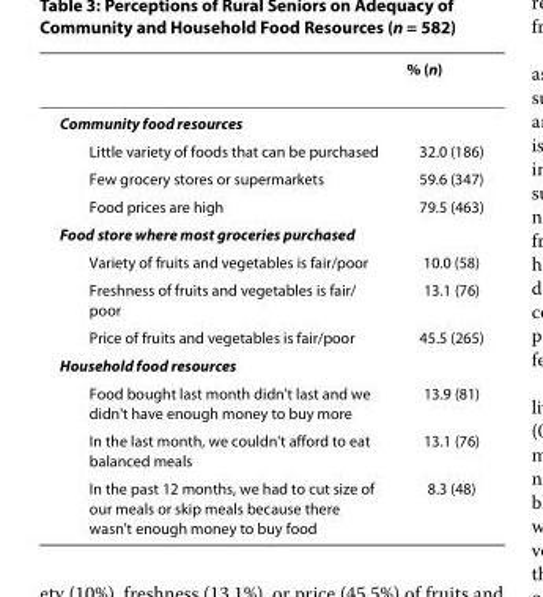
<table><thead><tr><td></td><td>% (n)</td></tr></thead><tbody><tr><td colspan="2">Community food resources</td></tr><tr><td>Little variety of foods that can be purchased</td><td>32.0 (186)</td></tr><tr><td>Few grocery stores or supermarkets</td><td>59.6 (347)</td></tr><tr><td>Food prices are high</td><td>79.5 (463)</td></tr><tr><td colspan="2">Food store where most groceries purchased</td></tr><tr><td>Variety of fruits and vegetables is fair/poor</td><td>10.0 (58)</td></tr><tr><td>Freshness of fruits and vegetables is fair/ poor</td><td>13.1 (76)</td></tr><tr><td>Price of fruits and vegetables is fair/poor</td><td>45.5 (265)</td></tr><tr><td colspan="2">Household food resources</td></tr><tr><td>Food bought last month didn&#x27;t last and we didn&#x27;t have enough money to buy more</td><td>13.9 (81)</td></tr><tr><td>In the last month, we couldn&#x27;t afford to eat balanced meals</td><td>13.1 (76)</td></tr><tr><td>In the past 12 months, we had to cut size of our meals or skip meals because there wasn&#x27;t enough money to buy food</td><td>8.3 (48)</td></tr></tbody></table>